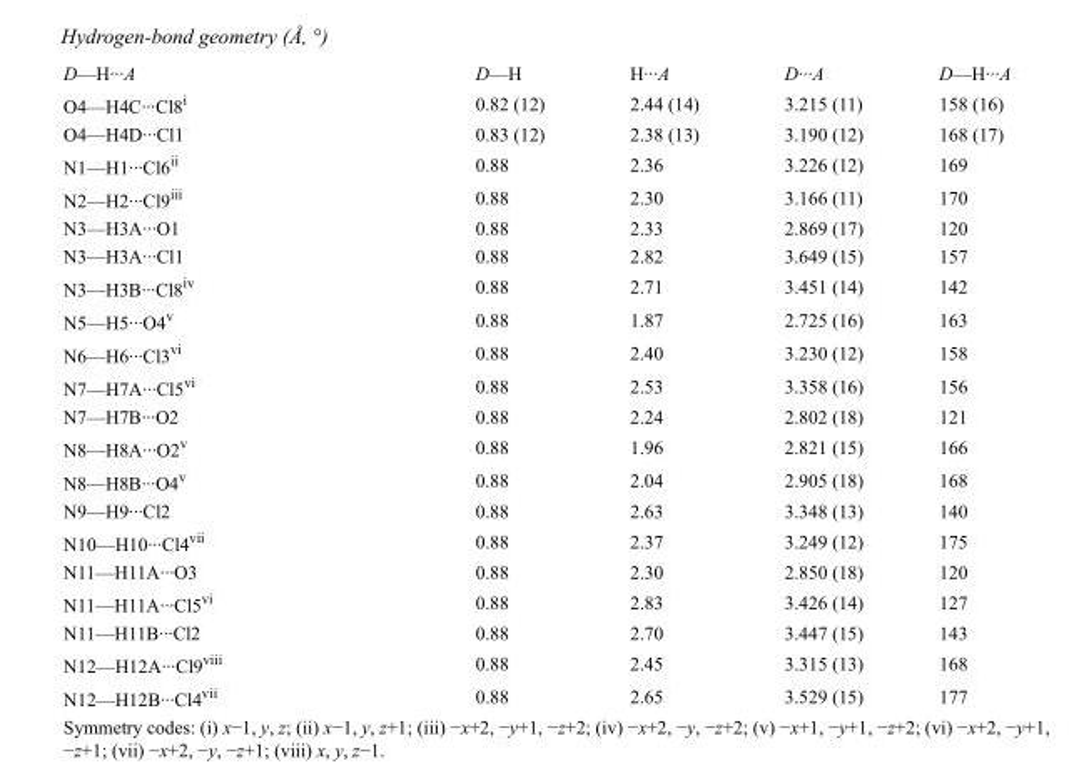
<table><tbody><tr><td>D—H···A</td><td>D—H</td><td>H···A</td><td>D···A</td><td>D—H···A</td></tr><tr><td>O4—H4C···Cl8<sup>i</sup></td><td>0.82 (12)</td><td>2.44 (14)</td><td>3.215 (11)</td><td>158 (16)</td></tr><tr><td>O4—H4D···Cl1</td><td>0.83 (12)</td><td>2.38 (13)</td><td>3.190 (12)</td><td>168 (17)</td></tr><tr><td>N1—H1···Cl6<sup>ii</sup></td><td>0.88</td><td>2.36</td><td>3.226 (12)</td><td>169</td></tr><tr><td>N2—H2···Cl9<sup>iii</sup></td><td>0.88</td><td>2.30</td><td>3.166 (11)</td><td>170</td></tr><tr><td>N3—H3A···O1</td><td>0.88</td><td>2.33</td><td>2.869 (17)</td><td>120</td></tr><tr><td>N3—H3A···Cl1</td><td>0.88</td><td>2.82</td><td>3.649 (15)</td><td>157</td></tr><tr><td>N3—H3B···Cl8<sup>iv</sup></td><td>0.88</td><td>2.71</td><td>3.451 (14)</td><td>142</td></tr><tr><td>N5—H5···O4<sup>v</sup></td><td>0.88</td><td>1.87</td><td>2.725 (16)</td><td>163</td></tr><tr><td>N6—H6···Cl3<sup>vi</sup></td><td>0.88</td><td>2.40</td><td>3.230 (12)</td><td>158</td></tr><tr><td>N7—H7A···Cl5<sup>vi</sup></td><td>0.88</td><td>2.53</td><td>3.358 (16)</td><td>156</td></tr><tr><td>N7—H7B···O2</td><td>0.88</td><td>2.24</td><td>2.802 (18)</td><td>121</td></tr><tr><td>N8—H8A···O2<sup>v</sup></td><td>0.88</td><td>1.96</td><td>2.821 (15)</td><td>166</td></tr><tr><td>N8—H8B···O4<sup>v</sup></td><td>0.88</td><td>2.04</td><td>2.905 (18)</td><td>168</td></tr><tr><td>N9—H9···Cl2</td><td>0.88</td><td>2.63</td><td>3.348 (13)</td><td>140</td></tr><tr><td>N10—H10···Cl4<sup>vii</sup></td><td>0.88</td><td>2.37</td><td>3.249 (12)</td><td>175</td></tr><tr><td>N11—H11A···O3</td><td>0.88</td><td>2.30</td><td>2.850 (18)</td><td>120</td></tr><tr><td>N11—H11A···Cl5<sup>vi</sup></td><td>0.88</td><td>2.83</td><td>3.426 (14)</td><td>127</td></tr><tr><td>N11—H11B···Cl2</td><td>0.88</td><td>2.70</td><td>3.447 (15)</td><td>143</td></tr><tr><td>N12—H12A···Cl9<sup>viii</sup></td><td>0.88</td><td>2.45</td><td>3.315 (13)</td><td>168</td></tr><tr><td>N12—H12B···Cl4<sup>vii</sup></td><td>0.88</td><td>2.65</td><td>3.529 (15)</td><td>177</td></tr></tbody></table>